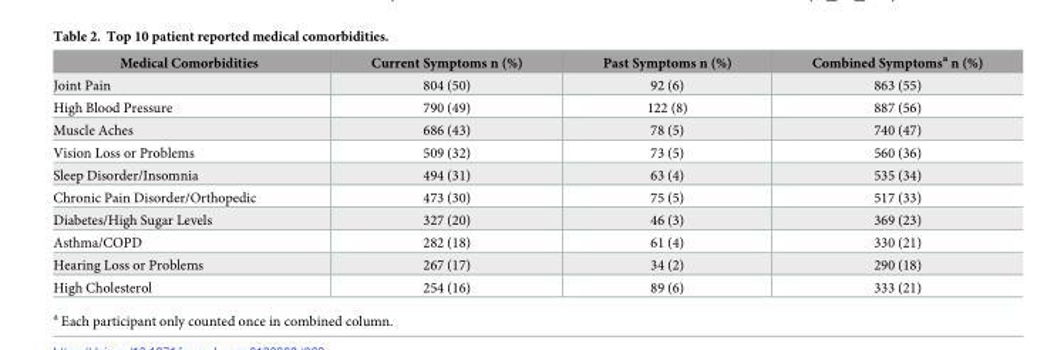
<table><thead><tr><td>Medical Comorbidities</td><td>Current Symptoms n (%)</td><td>Past Symptoms n (%)</td><td>Combined Symptoms<sup>a</sup> n (%)</td></tr></thead><tbody><tr><td>Joint Pain</td><td>804 (50)</td><td>92 (6)</td><td>863 (55)</td></tr><tr><td>High Blood Pressure</td><td>790 (49)</td><td>122 (8)</td><td>887 (56)</td></tr><tr><td>Muscle Aches</td><td>686 (43)</td><td>78 (5)</td><td>740 (47)</td></tr><tr><td>Vision Loss or Problems</td><td>509 (32)</td><td>73 (5)</td><td>560 (36)</td></tr><tr><td>Sleep Disorder/Insomnia</td><td>494 (31)</td><td>63 (4)</td><td>535 (34)</td></tr><tr><td>Chronic Pain Disorder/Orthopedic</td><td>473 (30)</td><td>75 (5)</td><td>517 (33)</td></tr><tr><td>Diabetes/High Sugar Levels</td><td>327 (20)</td><td>46 (3)</td><td>369 (23)</td></tr><tr><td>Asthma/COPD</td><td>282 (18)</td><td>61 (4)</td><td>330 (21)</td></tr><tr><td>Hearing Loss or Problems</td><td>267 (17)</td><td>34 (2)</td><td>290 (18)</td></tr><tr><td>High Cholesterol</td><td>254 (16)</td><td>89 (6)</td><td>333 (21)</td></tr></tbody></table>